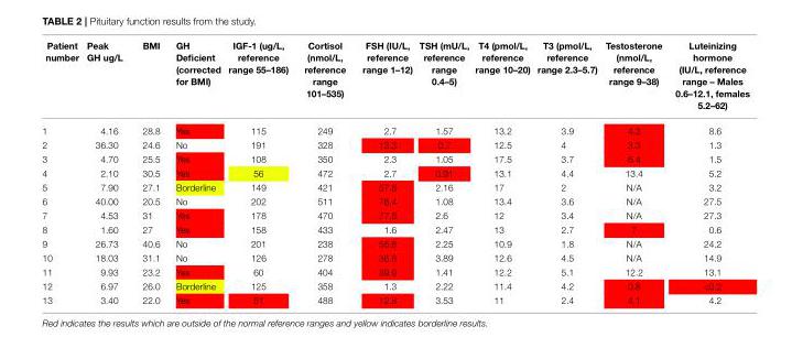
<table><thead><tr><td>Patient number</td><td>Peak GH ug/L</td><td>BMI</td><td>GH Deficient (corrected for BMI)</td><td>IGF-1 (ug/L, reference range 55–186)</td><td>Cortisol (nmol/L, reference range 101–535)</td><td>FSH (IU/L, reference range 1–12)</td><td>TSH (mU/L, reference range 0.4–5)</td><td>T4 (pmol/L, reference range 10–20)</td><td>T3 (pmol/L, reference range 2.3–5.7)</td><td>Testosterone (nmol/L, reference range 9–38)</td><td>Luteinizing hormone (IU/L, reference range – Males 0.6–12.1, females 5.2–62)</td></tr></thead><tbody><tr><td>1</td><td>4.16</td><td>28.8</td><td>Yes</td><td>115</td><td>249</td><td>2.7</td><td>1.57</td><td>13.2</td><td>3.9</td><td>4.3</td><td>8.6</td></tr><tr><td>2</td><td>36.30</td><td>24.6</td><td>No</td><td>191</td><td>328</td><td>13.3</td><td>0.7</td><td>12.5</td><td>4</td><td>3.3</td><td>1.3</td></tr><tr><td>3</td><td>4.70</td><td>25.5</td><td>Yes</td><td>108</td><td>350</td><td>2.3</td><td>1.05</td><td>17.5</td><td>3.7</td><td>6.4</td><td>1.5</td></tr><tr><td>4</td><td>2.10</td><td>30.5</td><td>Yes</td><td>56</td><td>472</td><td>2.7</td><td>0.91</td><td>13.1</td><td>4.4</td><td>13.4</td><td>5.2</td></tr><tr><td>5</td><td>7.90</td><td>27.1</td><td>Borderline</td><td>149</td><td>421</td><td>57.6</td><td>2.16</td><td>17</td><td>2</td><td>N/A</td><td>3.2</td></tr><tr><td>6</td><td>40.00</td><td>20.5</td><td>No</td><td>202</td><td>511</td><td>76.4</td><td>1.08</td><td>13.4</td><td>3.6</td><td>N/A</td><td>27.5</td></tr><tr><td>7</td><td>4.53</td><td>31</td><td>Yes</td><td>178</td><td>470</td><td>77.8</td><td>2.6</td><td>12</td><td>3.4</td><td>N/A</td><td>27.3</td></tr><tr><td>8</td><td>1.60</td><td>27</td><td>Yes</td><td>158</td><td>433</td><td>1.6</td><td>2.47</td><td>13</td><td>2.7</td><td>7</td><td>0.6</td></tr><tr><td>9</td><td>26.73</td><td>40.6</td><td>No</td><td>201</td><td>238</td><td>55.8</td><td>2.25</td><td>10.9</td><td>1.8</td><td>N/A</td><td>24.2</td></tr><tr><td>10</td><td>18.03</td><td>31.1</td><td>No</td><td>126</td><td>278</td><td>36.8</td><td>3.89</td><td>12.6</td><td>4.5</td><td>N/A</td><td>14.9</td></tr><tr><td>11</td><td>9.93</td><td>23.2</td><td>Yes</td><td>60</td><td>404</td><td>39.9</td><td>1.41</td><td>12.2</td><td>5.1</td><td>12.2</td><td>13.1</td></tr><tr><td>12</td><td>6.97</td><td>26.0</td><td>Borderline</td><td>125</td><td>358</td><td>1.3</td><td>2.22</td><td>11.4</td><td>4.2</td><td>0.8</td><td>&lt;0.2</td></tr><tr><td>13</td><td>3.40</td><td>22.0</td><td>Yes</td><td>51</td><td>488</td><td>12.8</td><td>3.53</td><td>11</td><td>2.4</td><td>4.1</td><td>4.2</td></tr></tbody></table>